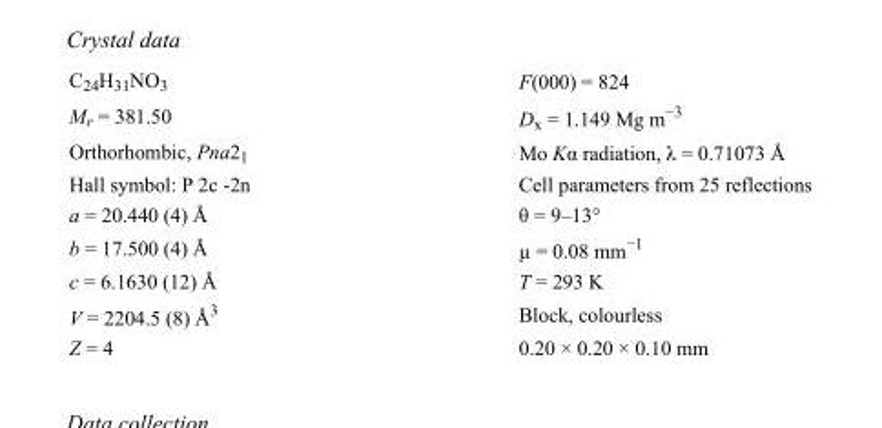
<table><tbody><tr><td>C<sub>24</sub>H<sub>31</sub>NO<sub>3</sub></td><td>F(000) = 824</td></tr><tr><td>M<sub>r</sub> = 381.50</td><td>D<sub>x</sub> = 1.149 Mg m<sup>−3</sup></td></tr><tr><td>Orthorhombic, Pna2<sub>1</sub></td><td>Mo Kα radiation, λ = 0.71073 Å</td></tr><tr><td>Hall symbol: P 2c -2n</td><td>Cell parameters from 25 reflections</td></tr><tr><td>a = 20.440 (4) Å</td><td>θ = 9–13°</td></tr><tr><td>b = 17.500 (4) Å</td><td>µ = 0.08 mm<sup>−1</sup></td></tr><tr><td>c = 6.1630 (12) Å</td><td>T = 293 K</td></tr><tr><td>V = 2204.5 (8) Å<sup>3</sup></td><td>Block, colourless</td></tr><tr><td>Z = 4</td><td>0.20 × 0.20 × 0.10 mm</td></tr></tbody></table>